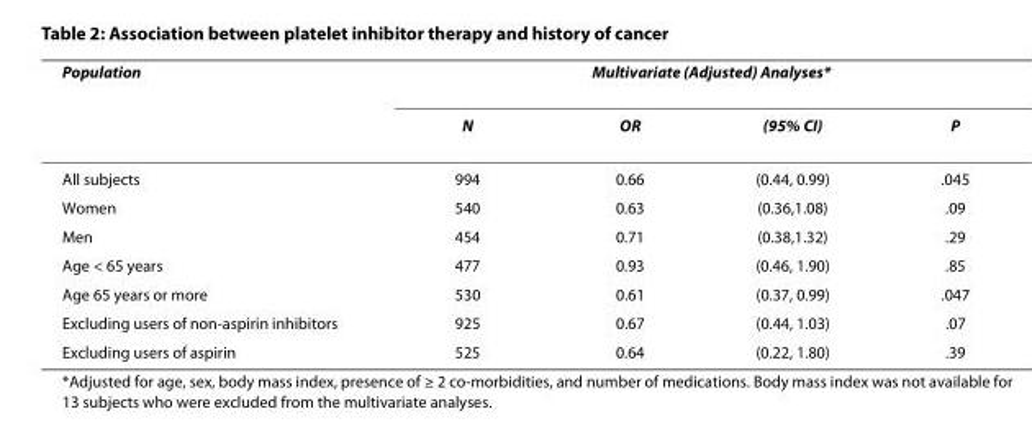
<table><thead><tr><td rowspan="2">Population</td><td colspan="4">Multivariate (Adjusted) Analyses*</td></tr><tr><td>N</td><td>OR</td><td>(95% CI)</td><td>P</td></tr></thead><tbody><tr><td>All subjects</td><td>994</td><td>0.66</td><td>(0.44, 0.99)</td><td>.045</td></tr><tr><td>Women</td><td>540</td><td>0.63</td><td>(0.36,1.08)</td><td>.09</td></tr><tr><td>Men</td><td>454</td><td>0.71</td><td>(0.38,1.32)</td><td>.29</td></tr><tr><td>Age &lt; 65 years</td><td>477</td><td>0.93</td><td>(0.46, 1.90)</td><td>.85</td></tr><tr><td>Age 65 years or more</td><td>530</td><td>0.61</td><td>(0.37, 0.99)</td><td>.047</td></tr><tr><td>Excluding users of non-aspirin inhibitors</td><td>925</td><td>0.67</td><td>(0.44, 1.03)</td><td>.07</td></tr><tr><td>Excluding users of aspirin</td><td>525</td><td>0.64</td><td>(0.22, 1.80)</td><td>.39</td></tr></tbody></table>